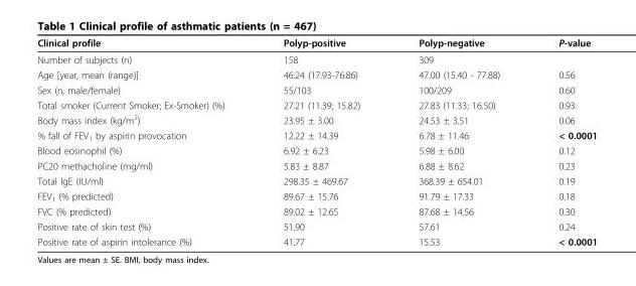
<table><thead><tr><td>Clinical profile</td><td>Polyp-positive</td><td>Polyp-negative</td><td>P-value</td></tr></thead><tbody><tr><td>Number of subjects (n)</td><td>158</td><td>309</td><td></td></tr><tr><td>Age [year, mean (range)]</td><td>46.24 (17.93-76.86)</td><td>47.00 (15.40 - 77.88)</td><td>0.56</td></tr><tr><td>Sex (n, male/female)</td><td>55/103</td><td>100/209</td><td>0.60</td></tr><tr><td>Total smoker (Current Smoker; Ex-Smoker) (%)</td><td>27.21 (11.39; 15.82)</td><td>27.83 (11.33; 16.50)</td><td>0.93</td></tr><tr><td>Body mass index (kg/m<sup>2</sup>)</td><td>23.95 ± 3.00</td><td>24.53 ± 3.51</td><td>0.06</td></tr><tr><td>% fall of FEV<sub>1</sub> by aspirin provocation</td><td>12.22 ± 14.39</td><td>6.78 ± 11.46</td><td>&lt; 0.0001</td></tr><tr><td>Blood eosinophil (%)</td><td>6.92 ± 6.23</td><td>5.98 ± 6.00</td><td>0.12</td></tr><tr><td>PC20 methacholine (mg/ml)</td><td>5.83 ± 8.87</td><td>6.88 ± 8.62</td><td>0.23</td></tr><tr><td>Total IgE (IU/ml)</td><td>298.35 ± 469.67</td><td>368.39 ± 654.01</td><td>0.19</td></tr><tr><td>FEV<sub>1</sub> (% predicted)</td><td>89.67 ± 15.76</td><td>91.79 ± 17.33</td><td>0.18</td></tr><tr><td>FVC (% predicted)</td><td>89.02 ± 12.65</td><td>87.68 ± 14.56</td><td>0.30</td></tr><tr><td>Positive rate of skin test (%)</td><td>51.90</td><td>57.61</td><td>0.24</td></tr><tr><td>Positive rate of aspirin intolerance (%)</td><td>41.77</td><td>15.53</td><td>&lt; 0.0001</td></tr></tbody></table>